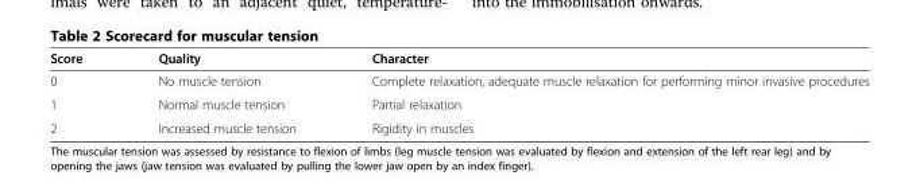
<table><thead><tr><td>Score</td><td>Quality</td><td>Character</td></tr></thead><tbody><tr><td>0</td><td>No muscle tension</td><td>Complete relaxation, adequate muscle relaxation for performing minor invasive procedures</td></tr><tr><td>1</td><td>Normal muscle tension</td><td>Partial relaxation</td></tr><tr><td>2</td><td>Increased muscle tension</td><td>Rigidity in muscles</td></tr></tbody></table>